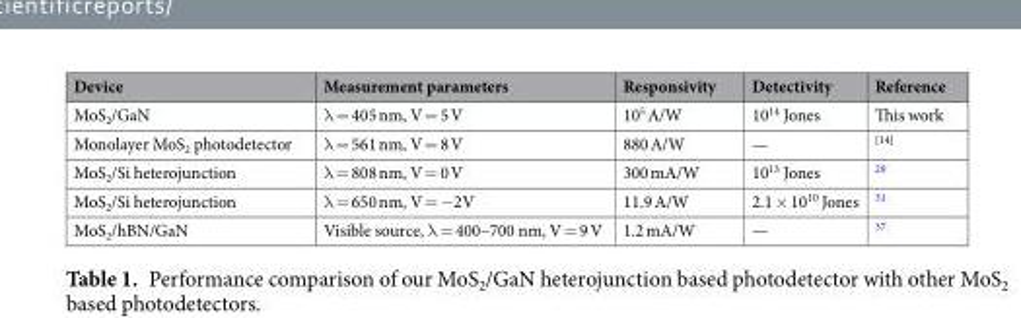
<table><thead><tr><td>Device</td><td>Measurement parameters</td><td>Responsivity</td><td>Detectivity</td><td>Reference</td></tr></thead><tbody><tr><td>MoS<sub>2</sub>/GaN</td><td>λ = 405 nm, V = 5 V</td><td>10<sup>5</sup> A/W</td><td>10<sup>14</sup> Jones</td><td>This work</td></tr><tr><td>Monolayer MoS<sub>2</sub> photodetector</td><td>λ = 561 nm, V = 8 V</td><td>880 A/W</td><td>—</td><td><sup>[14]</sup></td></tr><tr><td>MoS<sub>2</sub>/Si heterojunction</td><td>λ = 808 nm, V = 0 V</td><td>300 mA/W</td><td>10<sup>13</sup> Jones</td><td><sup>29</sup></td></tr><tr><td>MoS<sub>2</sub>/Si heterojunction</td><td>λ = 650 nm, V = −2V</td><td>11.9 A/W</td><td>2.1 × 10<sup>10</sup> Jones</td><td><sup>31</sup></td></tr><tr><td>MoS<sub>2</sub>/hBN/GaN</td><td>Visible source, λ = 400–700 nm, V = 9 V</td><td>1.2 mA/W</td><td>—</td><td><sup>37</sup></td></tr></tbody></table>